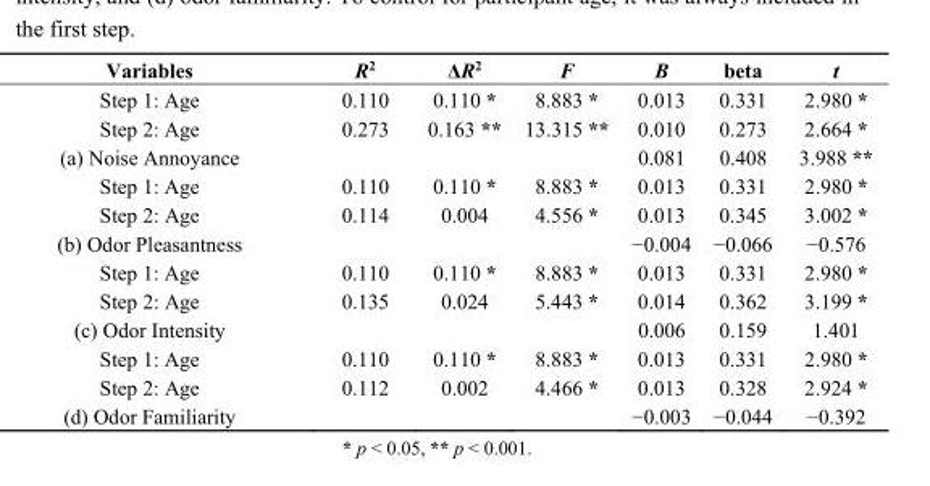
<table><thead><tr><td>Variables</td><td>R<sup>2</sup></td><td>ΔR<sup>2</sup></td><td>F</td><td>B</td><td>beta</td><td>t</td></tr></thead><tbody><tr><td>Step 1: Age</td><td>0.110</td><td>0.110 *</td><td>8.883 *</td><td>0.013</td><td>0.331</td><td>2.980 *</td></tr><tr><td>Step 2: Age</td><td>0.273</td><td>0.163 **</td><td>13.315 **</td><td>0.010</td><td>0.273</td><td>2.664 *</td></tr><tr><td>(a) Noise Annoyance</td><td></td><td></td><td></td><td>0.081</td><td>0.408</td><td>3.988 **</td></tr><tr><td>Step 1: Age</td><td>0.110</td><td>0.110 *</td><td>8.883 *</td><td>0.013</td><td>0.331</td><td>2.980 *</td></tr><tr><td>Step 2: Age</td><td>0.114</td><td>0.004</td><td>4.556 *</td><td>0.013</td><td>0.345</td><td>3.002 *</td></tr><tr><td>(b) Odor Pleasantness</td><td></td><td></td><td></td><td>−0.004</td><td>−0.066</td><td>−0.576</td></tr><tr><td>Step 1: Age</td><td>0.110</td><td>0.110 *</td><td>8.883 *</td><td>0.013</td><td>0.331</td><td>2.980 *</td></tr><tr><td>Step 2: Age</td><td>0.135</td><td>0.024</td><td>5.443 *</td><td>0.014</td><td>0.362</td><td>3.199 *</td></tr><tr><td>(c) Odor Intensity</td><td></td><td></td><td></td><td>0.006</td><td>0.159</td><td>1.401</td></tr><tr><td>Step 1: Age</td><td>0.110</td><td>0.110 *</td><td>8.883 *</td><td>0.013</td><td>0.331</td><td>2.980 *</td></tr><tr><td>Step 2: Age</td><td>0.112</td><td>0.002</td><td>4.466 *</td><td>0.013</td><td>0.328</td><td>2.924 *</td></tr><tr><td>(d) Odor Familiarity</td><td></td><td></td><td></td><td>−0.003</td><td>−0.044</td><td>−0.392</td></tr></tbody></table>